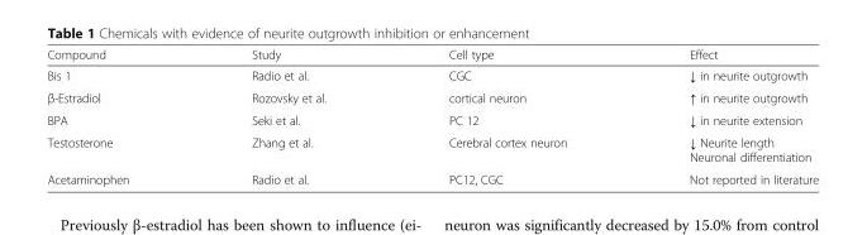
<table><thead><tr><td>Compound</td><td>Study</td><td>Cell type</td><td>Effect</td></tr></thead><tbody><tr><td>Bis 1</td><td>Radio et al.</td><td>CGC</td><td>↓ in neurite outgrowth</td></tr><tr><td>β-Estradiol</td><td>Rozovsky et al.</td><td>cortical neuron</td><td>↑ in neurite outgrowth</td></tr><tr><td>BPA</td><td>Seki et al.</td><td>PC 12</td><td>↓ in neurite extension</td></tr><tr><td>Testosterone</td><td>Zhang et al.</td><td>Cerebral cortex neuron</td><td>↓ Neurite length Neuronal differentiation</td></tr><tr><td>Acetaminophen</td><td>Radio et al.</td><td>PC12, CGC</td><td>Not reported in literature</td></tr></tbody></table>